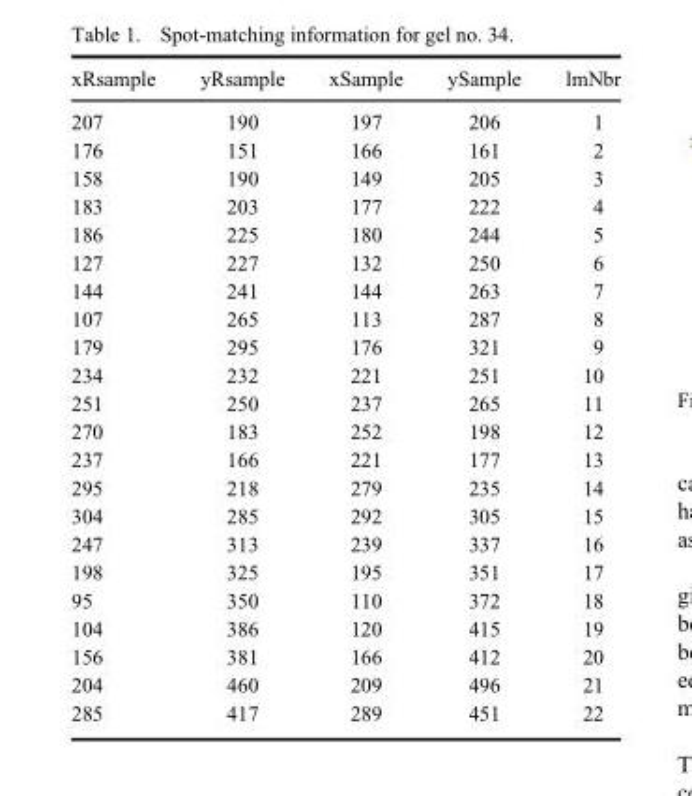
<table><thead><tr><td>xRsample</td><td>yRsample</td><td>xSample</td><td>ySample</td><td>lmNbr</td></tr></thead><tbody><tr><td>207</td><td>190</td><td>197</td><td>206</td><td>1</td></tr><tr><td>176</td><td>151</td><td>166</td><td>161</td><td>2</td></tr><tr><td>158</td><td>190</td><td>149</td><td>205</td><td>3</td></tr><tr><td>183</td><td>203</td><td>177</td><td>222</td><td>4</td></tr><tr><td>186</td><td>225</td><td>180</td><td>244</td><td>5</td></tr><tr><td>127</td><td>227</td><td>132</td><td>250</td><td>6</td></tr><tr><td>144</td><td>241</td><td>144</td><td>263</td><td>7</td></tr><tr><td>107</td><td>265</td><td>113</td><td>287</td><td>8</td></tr><tr><td>179</td><td>295</td><td>176</td><td>321</td><td>9</td></tr><tr><td>234</td><td>232</td><td>221</td><td>251</td><td>10</td></tr><tr><td>251</td><td>250</td><td>237</td><td>265</td><td>11</td></tr><tr><td>270</td><td>183</td><td>252</td><td>198</td><td>12</td></tr><tr><td>237</td><td>166</td><td>221</td><td>177</td><td>13</td></tr><tr><td>295</td><td>218</td><td>279</td><td>235</td><td>14</td></tr><tr><td>304</td><td>285</td><td>292</td><td>305</td><td>15</td></tr><tr><td>247</td><td>313</td><td>239</td><td>337</td><td>16</td></tr><tr><td>198</td><td>325</td><td>195</td><td>351</td><td>17</td></tr><tr><td>95</td><td>350</td><td>110</td><td>372</td><td>18</td></tr><tr><td>104</td><td>386</td><td>120</td><td>415</td><td>19</td></tr><tr><td>156</td><td>381</td><td>166</td><td>412</td><td>20</td></tr><tr><td>204</td><td>460</td><td>209</td><td>496</td><td>21</td></tr><tr><td>285</td><td>417</td><td>289</td><td>451</td><td>22</td></tr></tbody></table>